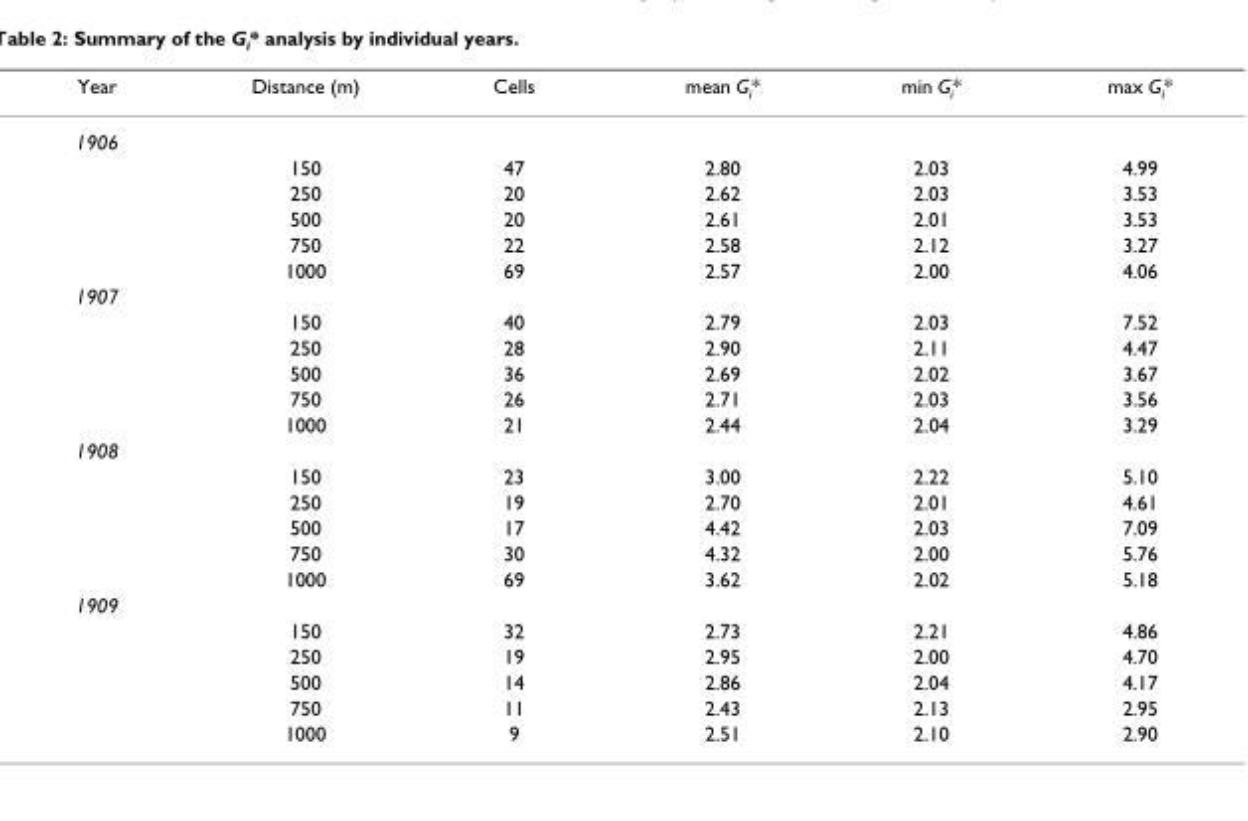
<table><thead><tr><td>Year</td><td>Distance (m)</td><td>Cells</td><td>mean G<sub>i</sub>*</td><td>min G<sub>i</sub>*</td><td>max G<sub>i</sub>*</td></tr></thead><tbody><tr><td colspan="6">1906</td></tr><tr><td></td><td>150</td><td>47</td><td>2.80</td><td>2.03</td><td>4.99</td></tr><tr><td></td><td>250</td><td>20</td><td>2.62</td><td>2.03</td><td>3.53</td></tr><tr><td></td><td>500</td><td>20</td><td>2.61</td><td>2.01</td><td>3.53</td></tr><tr><td></td><td>750</td><td>22</td><td>2.58</td><td>2.12</td><td>3.27</td></tr><tr><td></td><td>1000</td><td>69</td><td>2.57</td><td>2.00</td><td>4.06</td></tr><tr><td colspan="6">1907</td></tr><tr><td></td><td>150</td><td>40</td><td>2.79</td><td>2.03</td><td>7.52</td></tr><tr><td></td><td>250</td><td>28</td><td>2.90</td><td>2.11</td><td>4.47</td></tr><tr><td></td><td>500</td><td>36</td><td>2.69</td><td>2.02</td><td>3.67</td></tr><tr><td></td><td>750</td><td>26</td><td>2.71</td><td>2.03</td><td>3.56</td></tr><tr><td></td><td>1000</td><td>21</td><td>2.44</td><td>2.04</td><td>3.29</td></tr><tr><td colspan="6">1908</td></tr><tr><td></td><td>150</td><td>23</td><td>3.00</td><td>2.22</td><td>5.10</td></tr><tr><td></td><td>250</td><td>19</td><td>2.70</td><td>2.01</td><td>4.61</td></tr><tr><td></td><td>500</td><td>17</td><td>4.42</td><td>2.03</td><td>7.09</td></tr><tr><td></td><td>750</td><td>30</td><td>4.32</td><td>2.00</td><td>5.76</td></tr><tr><td></td><td>1000</td><td>69</td><td>3.62</td><td>2.02</td><td>5.18</td></tr><tr><td colspan="6">1909</td></tr><tr><td></td><td>150</td><td>32</td><td>2.73</td><td>2.21</td><td>4.86</td></tr><tr><td></td><td>250</td><td>19</td><td>2.95</td><td>2.00</td><td>4.70</td></tr><tr><td></td><td>500</td><td>14</td><td>2.86</td><td>2.04</td><td>4.17</td></tr><tr><td></td><td>750</td><td>11</td><td>2.43</td><td>2.13</td><td>2.95</td></tr><tr><td></td><td>1000</td><td>9</td><td>2.51</td><td>2.10</td><td>2.90</td></tr></tbody></table>